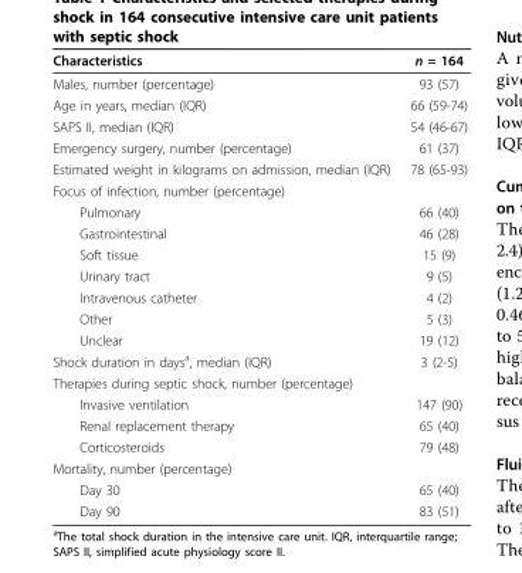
<table><thead><tr><td>Characteristics</td><td>n = 164</td></tr></thead><tbody><tr><td>Males, number (percentage)</td><td>93 (57)</td></tr><tr><td>Age in years, median (IQR)</td><td>66 (59-74)</td></tr><tr><td>SAPS II, median (IQR)</td><td>54 (46-67)</td></tr><tr><td>Emergency surgery, number (percentage)</td><td>61 (37)</td></tr><tr><td>Estimated weight in kilograms on admission, median (IQR)</td><td>78 (65-93)</td></tr><tr><td colspan="2">Focus of infection, number (percentage)</td></tr><tr><td>Pulmonary</td><td>66 (40)</td></tr><tr><td>Gastrointestinal</td><td>46 (28)</td></tr><tr><td>Soft tissue</td><td>15 (9)</td></tr><tr><td>Urinary tract</td><td>9 (5)</td></tr><tr><td>Intravenous catheter</td><td>4 (2)</td></tr><tr><td>Other</td><td>5 (3)</td></tr><tr><td>Unclear</td><td>19 (12)</td></tr><tr><td>Shock duration in days<sup>a</sup>, median (IQR)</td><td>3 (2-5)</td></tr><tr><td colspan="2">Therapies during septic shock, number (percentage)</td></tr><tr><td>Invasive ventilation</td><td>147 (90)</td></tr><tr><td>Renal replacement therapy</td><td>65 (40)</td></tr><tr><td>Corticosteroids</td><td>79 (48)</td></tr><tr><td colspan="2">Mortality, number (percentage)</td></tr><tr><td>Day 30</td><td>65 (40)</td></tr><tr><td>Day 90</td><td>83 (51)</td></tr></tbody></table>